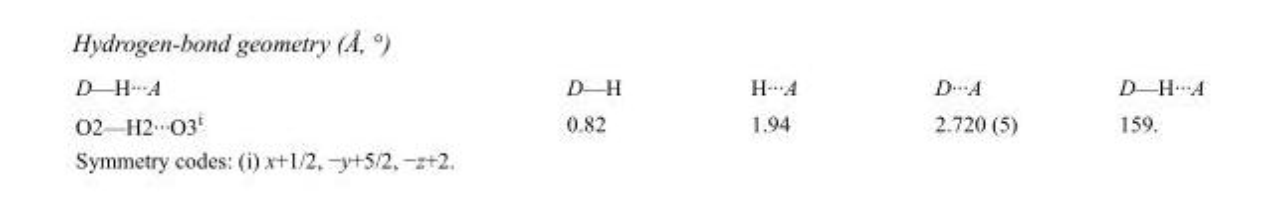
<table><tbody><tr><td>D—H···A</td><td>D—H</td><td>H···A</td><td>D···A</td><td>D—H···A</td></tr><tr><td>O2—H2···O3<sup>i</sup></td><td>0.82</td><td>1.94</td><td>2.720 (5)</td><td>159.</td></tr></tbody></table>